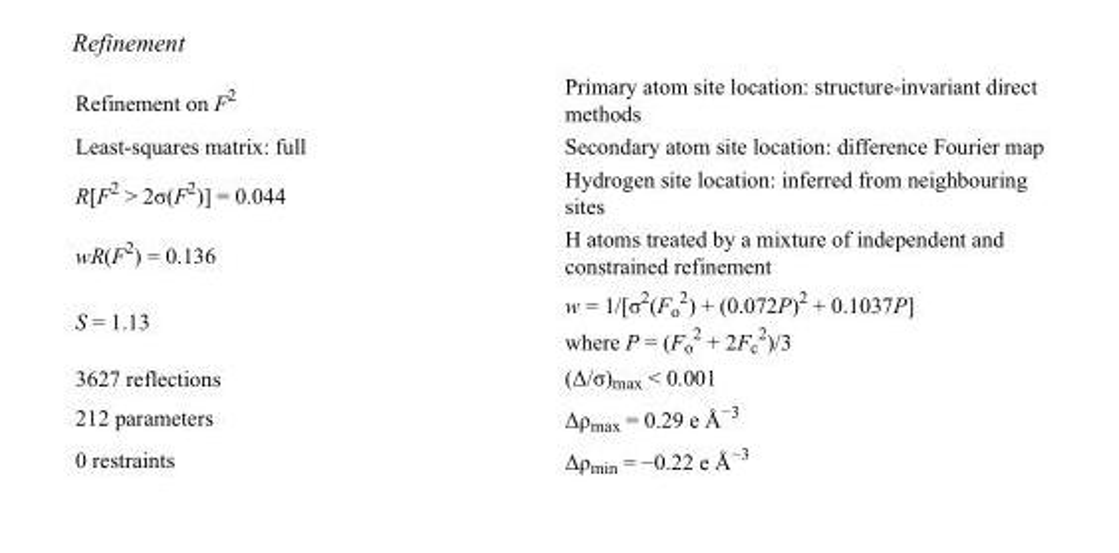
<table><tbody><tr><td>Refinement on F<sup>2</sup></td><td>Primary atom site location: structure-invariant direct methods</td></tr><tr><td>Least-squares matrix: full</td><td>Secondary atom site location: difference Fourier map</td></tr><tr><td>R[F<sup>2</sup> &gt; 2σ(F<sup>2</sup>)] = 0.044</td><td>Hydrogen site location: inferred from neighbouring sites</td></tr><tr><td>wR(F<sup>2</sup>) = 0.136</td><td>H atoms treated by a mixture of independent and constrained refinement</td></tr><tr><td>S = 1.13</td><td>w = 1/[σ<sup>2</sup>(F<sub>o</sub> <sup>2</sup>) + (0.072P)<sup>2</sup> + 0.1037P] where P = (F<sub>o</sub> <sup>2</sup> + 2F<sub>c</sub> <sup>2</sup>)/3</td></tr><tr><td>3627 reflections</td><td>(Δ/σ)<sub>max</sub> &lt; 0.001</td></tr><tr><td>212 parameters</td><td>Δρ<sub>max</sub> = 0.29 e Å<sup>−3</sup></td></tr><tr><td>0 restraints</td><td>Δρ<sub>min</sub> = −0.22 e Å<sup>−3</sup></td></tr></tbody></table>